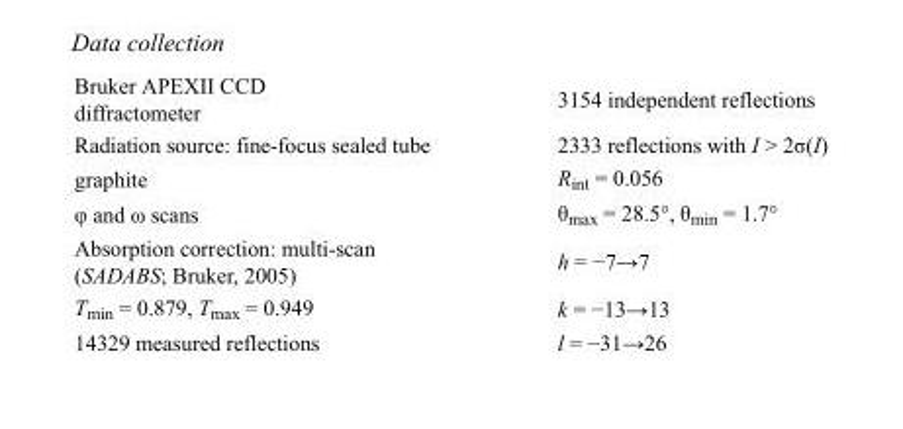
<table><tbody><tr><td>Bruker APEXII CCD diffractometer</td><td>3154 independent reflections</td></tr><tr><td>Radiation source: fine-focus sealed tube</td><td>2333 reflections with I &gt; 2σ(I)</td></tr><tr><td>graphite</td><td>R<sub>int</sub> = 0.056</td></tr><tr><td>φ and ω scans</td><td>θ<sub>max</sub> = 28.5°, θ<sub>min</sub> = 1.7°</td></tr><tr><td>Absorption correction: multi-scan (SADABS; Bruker, 2005)</td><td>h = −7→7</td></tr><tr><td>T<sub>min</sub> = 0.879, T<sub>max</sub> = 0.949</td><td>k = −13→13</td></tr><tr><td>14329 measured reflections</td><td>l = −31→26</td></tr></tbody></table>